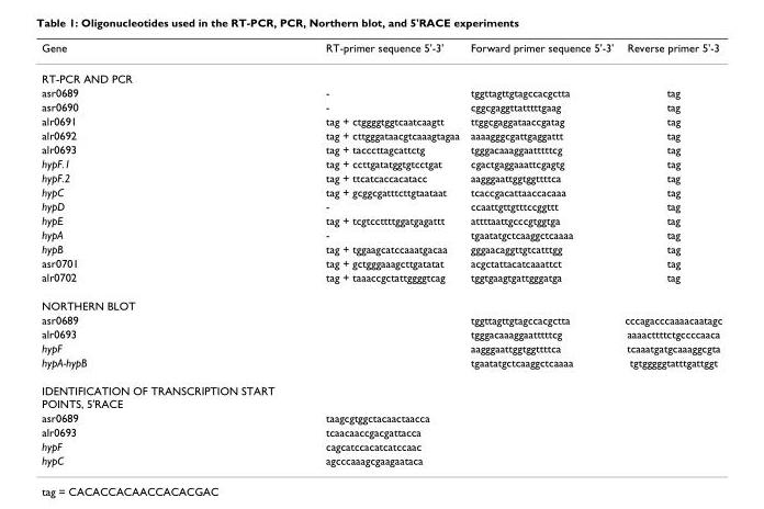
<table><thead><tr><td>Gene</td><td>RT-primer sequence 5&#x27;-3&#x27;</td><td>Forward primer sequence 5&#x27;-3&#x27;</td><td>Reverse primer 5&#x27;-3</td></tr></thead><tbody><tr><td colspan="4">RT-PCR AND PCR</td></tr><tr><td>asr0689</td><td>-</td><td>tggttagttgtagccacgctta</td><td>tag</td></tr><tr><td>asr0690</td><td>-</td><td>cggcgaggttatttttgaag</td><td>tag</td></tr><tr><td>alr0691</td><td>tag + ctggggtggtcaatcaagtt</td><td>ttggcgaggataaccgatag</td><td>tag</td></tr><tr><td>alr0692</td><td>tag + cttgggataacgtcaaagtagaa</td><td>aaaagggcgattgaggattt</td><td>tag</td></tr><tr><td>alr0693</td><td>tag + tacccttagcattctg</td><td>tgggacaaaggaatttttcg</td><td>tag</td></tr><tr><td>hypF.1</td><td>tag + ccttgatatggtgtcctgat</td><td>cgactgaggaaattcgagtg</td><td>tag</td></tr><tr><td>hypF.2</td><td>tag + ttcatcaccacatacc</td><td>aagggaattggtggttttca</td><td>tag</td></tr><tr><td>hypC</td><td>tag + gcggcgatttcttgtaataat</td><td>tcaccgacattaaccacaaa</td><td>tag</td></tr><tr><td>hypD</td><td>-</td><td>ccaattgttgtttccggttt</td><td>tag</td></tr><tr><td>hypE</td><td>tag + tcgtccttttggatgagattt</td><td>attttaattgcccgtggtga</td><td>tag</td></tr><tr><td>hypA</td><td>-</td><td>tgaatatgctcaaggctcaaaa</td><td>tag</td></tr><tr><td>hypB</td><td>tag + tggaagcatccaaatgacaa</td><td>gggaacaggttgtcatttgg</td><td>tag</td></tr><tr><td>asr0701</td><td>tag + gctgggaaagcttgatatat</td><td>acgctattacatcaaattct</td><td>tag</td></tr><tr><td>alr0702</td><td>tag + taaaccgctattggggtcag</td><td>tggtgaagtgattgggatga</td><td>tag</td></tr><tr><td colspan="4">NORTHERN BLOT</td></tr><tr><td>asr0689</td><td></td><td>tggttagttgtagccacgctta</td><td>cccagacccaaaacaatagc</td></tr><tr><td>alr0693</td><td></td><td>tgggacaaaggaatttttcg</td><td>aaaacttttctgccccaaca</td></tr><tr><td>hypF</td><td></td><td>aagggaattggtggttttca</td><td>tcaaatgatgcaaaggcgta</td></tr><tr><td>hypA-hypB</td><td></td><td>tgaatatgctcaaggctcaaaa</td><td>tgtgggggtatttgattggt</td></tr><tr><td colspan="4">IDENTIFICATION OF TRANSCRIPTION START POINTS, 5&#x27;RACE</td></tr><tr><td>asr0689</td><td>taagcgtggctacaactaacca</td><td></td><td></td></tr><tr><td>alr0693</td><td>tcaacaaccgacgattacca</td><td></td><td></td></tr><tr><td>hypF</td><td>cagcatccacatcatccaac</td><td></td><td></td></tr><tr><td>hypC</td><td>agcccaaagcgaagaataca</td><td></td><td></td></tr></tbody></table>